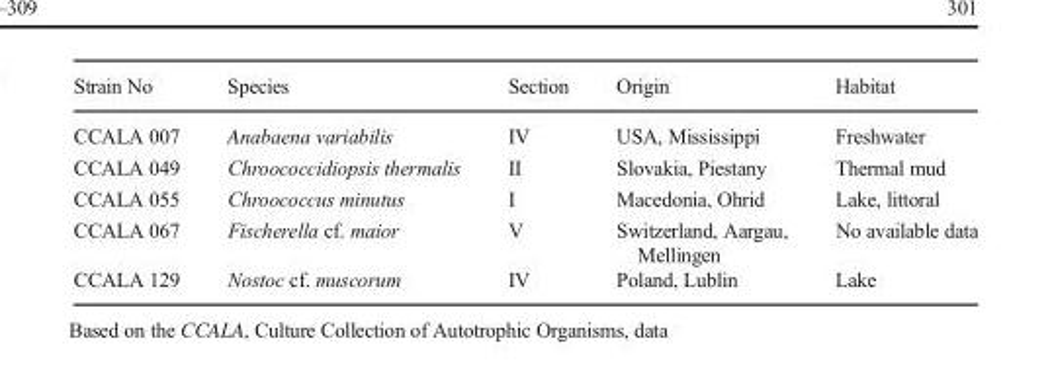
<table><thead><tr><td>Strain No</td><td>Species</td><td>Section</td><td>Origin</td><td>Habitat</td></tr></thead><tbody><tr><td>CCALA 007</td><td>Anabaena variabilis</td><td>IV</td><td>USA, Mississippi</td><td>Freshwater</td></tr><tr><td>CCALA 049</td><td>Chroococcidiopsis thermalis</td><td>II</td><td>Slovakia, Piestany</td><td>Thermal mud</td></tr><tr><td>CCALA 055</td><td>Chroococcus minutus</td><td>I</td><td>Macedonia, Ohrid</td><td>Lake, littoral</td></tr><tr><td>CCALA 067</td><td>Fischerella cf. maior</td><td>V</td><td>Switzerland, Aargau, Mellingen</td><td>No available data</td></tr><tr><td>CCALA 129</td><td>Nostoc cf. muscorum</td><td>IV</td><td>Poland, Lublin</td><td>Lake</td></tr></tbody></table>